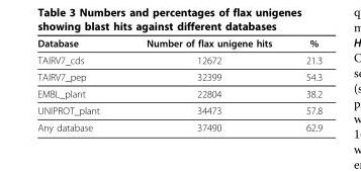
<table><thead><tr><td>Database</td><td>Number of flax unigene hits</td><td>%</td></tr></thead><tbody><tr><td>TAIRV7_cds</td><td>12672</td><td>21.3</td></tr><tr><td>TAIRV7_pep</td><td>32399</td><td>54.3</td></tr><tr><td>EMBL_plant</td><td>22804</td><td>38.2</td></tr><tr><td>UNIPROT_plant</td><td>34473</td><td>57.8</td></tr><tr><td>Any database</td><td>37490</td><td>62.9</td></tr></tbody></table>